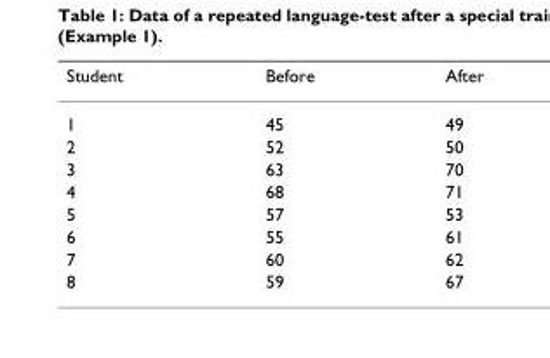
<table><thead><tr><td>Student</td><td>Before</td><td>After</td></tr></thead><tbody><tr><td>1</td><td>45</td><td>49</td></tr><tr><td>2</td><td>52</td><td>50</td></tr><tr><td>3</td><td>63</td><td>70</td></tr><tr><td>4</td><td>68</td><td>71</td></tr><tr><td>5</td><td>57</td><td>53</td></tr><tr><td>6</td><td>55</td><td>61</td></tr><tr><td>7</td><td>60</td><td>62</td></tr><tr><td>8</td><td>59</td><td>67</td></tr></tbody></table>